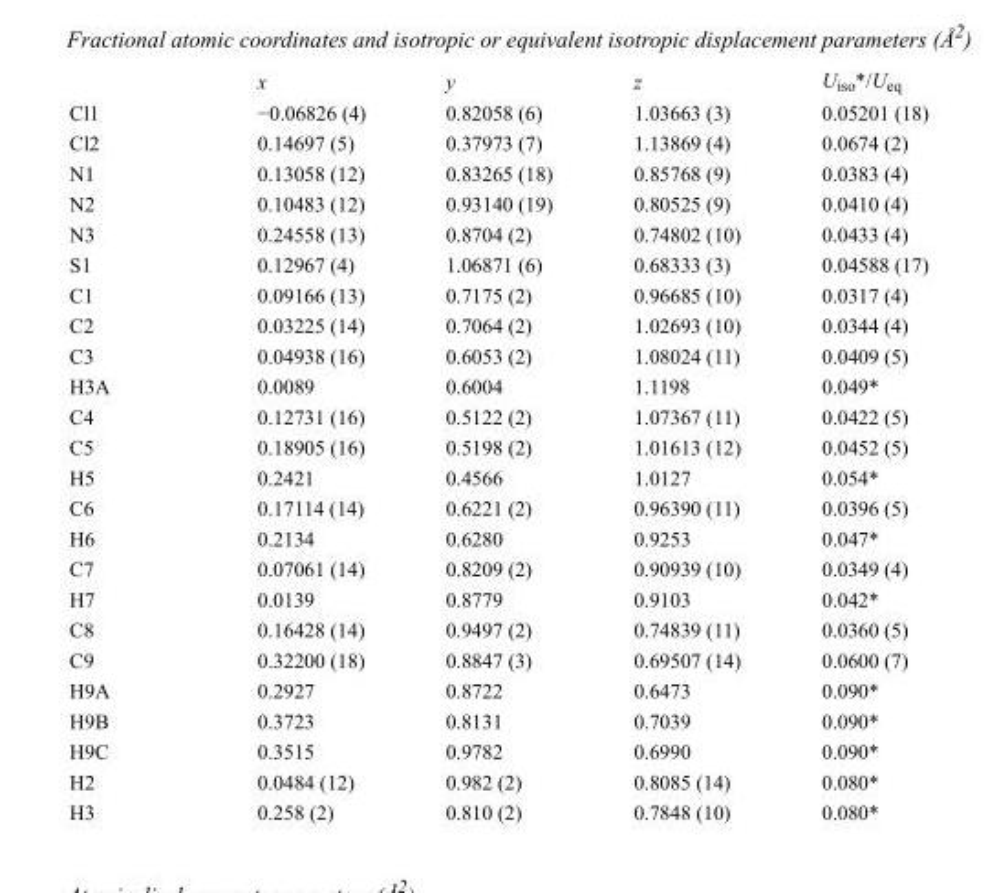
<table><thead><tr><td></td><td>x</td><td>y</td><td>z</td><td>U<sub>iso</sub>*/U<sub>eq</sub></td></tr></thead><tbody><tr><td>Cl1</td><td>−0.06826 (4)</td><td>0.82058 (6)</td><td>1.03663 (3)</td><td>0.05201 (18)</td></tr><tr><td>Cl2</td><td>0.14697 (5)</td><td>0.37973 (7)</td><td>1.13869 (4)</td><td>0.0674 (2)</td></tr><tr><td>N1</td><td>0.13058 (12)</td><td>0.83265 (18)</td><td>0.85768 (9)</td><td>0.0383 (4)</td></tr><tr><td>N2</td><td>0.10483 (12)</td><td>0.93140 (19)</td><td>0.80525 (9)</td><td>0.0410 (4)</td></tr><tr><td>N3</td><td>0.24558 (13)</td><td>0.8704 (2)</td><td>0.74802 (10)</td><td>0.0433 (4)</td></tr><tr><td>S1</td><td>0.12967 (4)</td><td>1.06871 (6)</td><td>0.68333 (3)</td><td>0.04588 (17)</td></tr><tr><td>C1</td><td>0.09166 (13)</td><td>0.7175 (2)</td><td>0.96685 (10)</td><td>0.0317 (4)</td></tr><tr><td>C2</td><td>0.03225 (14)</td><td>0.7064 (2)</td><td>1.02693 (10)</td><td>0.0344 (4)</td></tr><tr><td>C3</td><td>0.04938 (16)</td><td>0.6053 (2)</td><td>1.08024 (11)</td><td>0.0409 (5)</td></tr><tr><td>H3A</td><td>0.0089</td><td>0.6004</td><td>1.1198</td><td>0.049*</td></tr><tr><td>C4</td><td>0.12731 (16)</td><td>0.5122 (2)</td><td>1.07367 (11)</td><td>0.0422 (5)</td></tr><tr><td>C5</td><td>0.18905 (16)</td><td>0.5198 (2)</td><td>1.01613 (12)</td><td>0.0452 (5)</td></tr><tr><td>H5</td><td>0.2421</td><td>0.4566</td><td>1.0127</td><td>0.054*</td></tr><tr><td>C6</td><td>0.17114 (14)</td><td>0.6221 (2)</td><td>0.96390 (11)</td><td>0.0396 (5)</td></tr><tr><td>H6</td><td>0.2134</td><td>0.6280</td><td>0.9253</td><td>0.047*</td></tr><tr><td>C7</td><td>0.07061 (14)</td><td>0.8209 (2)</td><td>0.90939 (10)</td><td>0.0349 (4)</td></tr><tr><td>H7</td><td>0.0139</td><td>0.8779</td><td>0.9103</td><td>0.042*</td></tr><tr><td>C8</td><td>0.16428 (14)</td><td>0.9497 (2)</td><td>0.74839 (11)</td><td>0.0360 (5)</td></tr><tr><td>C9</td><td>0.32200 (18)</td><td>0.8847 (3)</td><td>0.69507 (14)</td><td>0.0600 (7)</td></tr><tr><td>H9A</td><td>0.2927</td><td>0.8722</td><td>0.6473</td><td>0.090*</td></tr><tr><td>H9B</td><td>0.3723</td><td>0.8131</td><td>0.7039</td><td>0.090*</td></tr><tr><td>H9C</td><td>0.3515</td><td>0.9782</td><td>0.6990</td><td>0.090*</td></tr><tr><td>H2</td><td>0.0484 (12)</td><td>0.982 (2)</td><td>0.8085 (14)</td><td>0.080*</td></tr><tr><td>H3</td><td>0.258 (2)</td><td>0.810 (2)</td><td>0.7848 (10)</td><td>0.080*</td></tr></tbody></table>